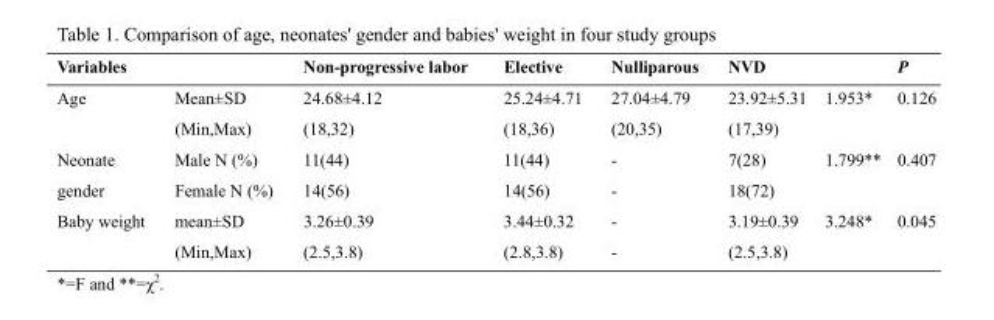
<table><thead><tr><td>Variables</td><td></td><td>Non-progressive labor</td><td>Elective</td><td>Nulliparous</td><td>NVD</td><td></td><td>P</td></tr></thead><tbody><tr><td rowspan="2">Age</td><td>Mean±SD</td><td>24.68±4.12</td><td>25.24±4.71</td><td>27.04±4.79</td><td>23.92±5.31</td><td rowspan="2">1.953*</td><td rowspan="2">0.126</td></tr><tr><td>(Min,Max)</td><td>(18,32)</td><td>(18,36)</td><td>(20,35)</td><td>(17,39)</td></tr><tr><td rowspan="2">Neonate gender</td><td>Male N (%)</td><td>11(44)</td><td>11(44)</td><td>-</td><td>7(28)</td><td rowspan="2">1.799**</td><td rowspan="2">0.407</td></tr><tr><td>Female N (%)</td><td>14(56)</td><td>14(56)</td><td>-</td><td>18(72)</td></tr><tr><td rowspan="2">Baby weight</td><td>mean±SD</td><td>3.26±0.39</td><td>3.44±0.32</td><td>-</td><td>3.19±0.39</td><td rowspan="2">3.248*</td><td rowspan="2">0.045</td></tr><tr><td>(Min,Max)</td><td>(2.5,3.8)</td><td>(2.8,3.8)</td><td>-</td><td>(2.5,3.8)</td></tr></tbody></table>